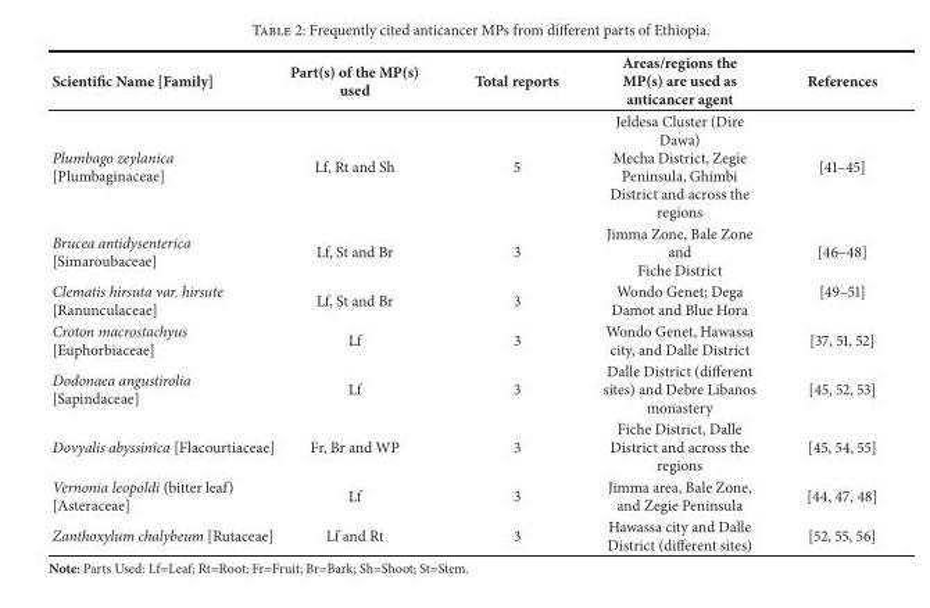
<table><thead><tr><td>Scientific Name [Family]</td><td>Part(s) of the MP(s) used</td><td>Total reports</td><td>Areas/regions the MP(s) are used as anticancer agent</td><td>References</td></tr></thead><tbody><tr><td>Plumbago zeylanica [Plumbaginaceae]</td><td>Lf, Rt and Sh</td><td>5</td><td>Jeldesa Cluster (Dire Dawa) Mecha District, Zegie Peninsula, Ghimbi District and across the regions</td><td>[41–45]</td></tr><tr><td>Brucea antidysenterica [Simaroubaceae]</td><td>Lf, St and Br</td><td>3</td><td>Jimma Zone, Bale Zone and Fiche District</td><td>[46–48]</td></tr><tr><td>Clematis hirsuta var. hirsute [Ranunculaceae]</td><td>Lf, St and Br</td><td>3</td><td>Wondo Genet; Dega Damot and Blue Hora</td><td>[49–51]</td></tr><tr><td>Croton macrostachyus [Euphorbiaceae]</td><td>Lf</td><td>3</td><td>Wondo Genet, Hawassa city, and Dalle District</td><td>[37, 51, 52]</td></tr><tr><td>Dodonaea angustirolia [Sapindaceae]</td><td>Lf</td><td>3</td><td>Dalle District (different sites) and Debre Libanos monastery</td><td>[45, 52, 53]</td></tr><tr><td>Dovyalis abyssinica [Flacourtiaceae]</td><td>Fr, Br and WP</td><td>3</td><td>Fiche District, Dalle District and across the regions</td><td>[45, 54, 55]</td></tr><tr><td>Vernonia leopoldi (bitter leaf) [Asteraceae]</td><td>Lf</td><td>3</td><td>Jimma area, Bale Zone, and Zegie Peninsula</td><td>[44, 47, 48]</td></tr><tr><td>Zanthoxylum chalybeum [Rutaceae]</td><td>Lf and Rt</td><td>3</td><td>Hawassa city and Dalle District (different sites)</td><td>[52, 55, 56]</td></tr></tbody></table>